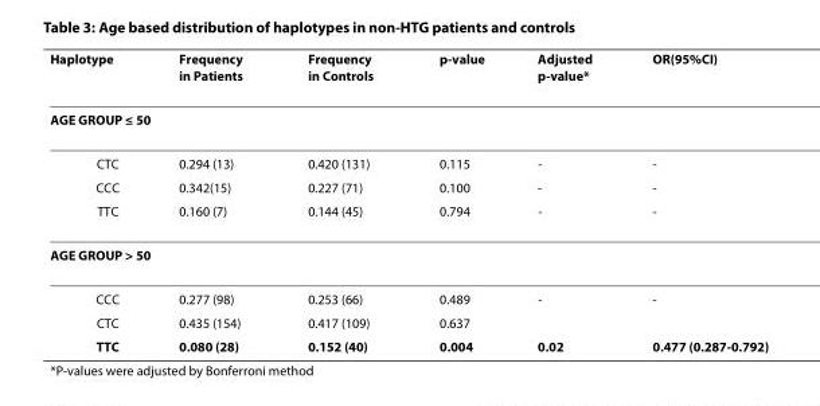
<table><thead><tr><td>Haplotype</td><td>Frequency in Patients</td><td>Frequency in Controls</td><td>p-value</td><td>Adjusted p-value*</td><td>OR(95%CI)</td></tr></thead><tbody><tr><td colspan="6">AGE GROUP ≤ 50</td></tr><tr><td>CTC</td><td>0.294 (13)</td><td>0.420 (131)</td><td>0.115</td><td>-</td><td>-</td></tr><tr><td>CCC</td><td>0.342(15)</td><td>0.227 (71)</td><td>0.100</td><td>-</td><td>-</td></tr><tr><td>TTC</td><td>0.160 (7)</td><td>0.144 (45)</td><td>0.794</td><td>-</td><td>-</td></tr><tr><td colspan="6">AGE GROUP &gt; 50</td></tr><tr><td>CCC</td><td>0.277 (98)</td><td>0.253 (66)</td><td>0.489</td><td>-</td><td>-</td></tr><tr><td>CTC</td><td>0.435 (154)</td><td>0.417 (109)</td><td>0.637</td><td></td><td></td></tr><tr><td>TTC</td><td>0.080 (28)</td><td>0.152 (40)</td><td>0.004</td><td>0.02</td><td>0.477 (0.287-0.792)</td></tr></tbody></table>